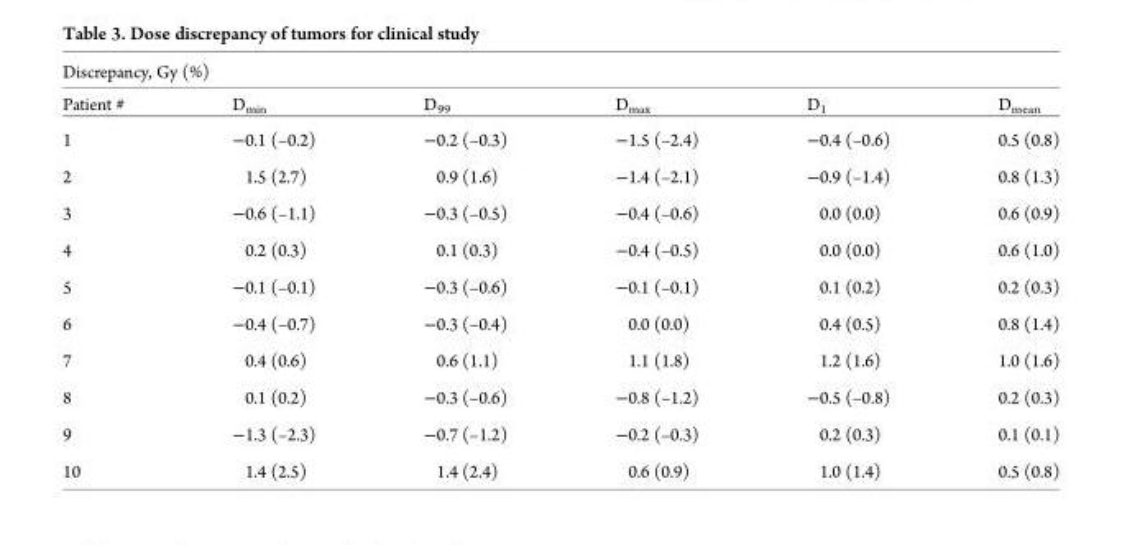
<table><thead><tr><td colspan="6">Discrepancy, Gy (%)</td></tr><tr><td>Patient #</td><td>D<sub>min</sub></td><td>D<sub>99</sub></td><td>D<sub>max</sub></td><td>D<sub>1</sub></td><td>D<sub>mean</sub></td></tr></thead><tbody><tr><td>1</td><td>−0.1 (–0.2)</td><td>−0.2 (–0.3)</td><td>−1.5 (–2.4)</td><td>−0.4 (–0.6)</td><td>0.5 (0.8)</td></tr><tr><td>2</td><td>1.5 (2.7)</td><td>0.9 (1.6)</td><td>−1.4 (–2.1)</td><td>−0.9 (–1.4)</td><td>0.8 (1.3)</td></tr><tr><td>3</td><td>−0.6 (–1.1)</td><td>−0.3 (–0.5)</td><td>−0.4 (–0.6)</td><td>0.0 (0.0)</td><td>0.6 (0.9)</td></tr><tr><td>4</td><td>0.2 (0.3)</td><td>0.1 (0.3)</td><td>−0.4 (–0.5)</td><td>0.0 (0.0)</td><td>0.6 (1.0)</td></tr><tr><td>5</td><td>−0.1 (–0.1)</td><td>−0.3 (–0.6)</td><td>−0.1 (–0.1)</td><td>0.1 (0.2)</td><td>0.2 (0.3)</td></tr><tr><td>6</td><td>−0.4 (–0.7)</td><td>−0.3 (–0.4)</td><td>0.0 (0.0)</td><td>0.4 (0.5)</td><td>0.8 (1.4)</td></tr><tr><td>7</td><td>0.4 (0.6)</td><td>0.6 (1.1)</td><td>1.1 (1.8)</td><td>1.2 (1.6)</td><td>1.0 (1.6)</td></tr><tr><td>8</td><td>0.1 (0.2)</td><td>−0.3 (–0.6)</td><td>−0.8 (–1.2)</td><td>−0.5 (–0.8)</td><td>0.2 (0.3)</td></tr><tr><td>9</td><td>−1.3 (–2.3)</td><td>−0.7 (–1.2)</td><td>−0.2 (–0.3)</td><td>0.2 (0.3)</td><td>0.1 (0.1)</td></tr><tr><td>10</td><td>1.4 (2.5)</td><td>1.4 (2.4)</td><td>0.6 (0.9)</td><td>1.0 (1.4)</td><td>0.5 (0.8)</td></tr></tbody></table>